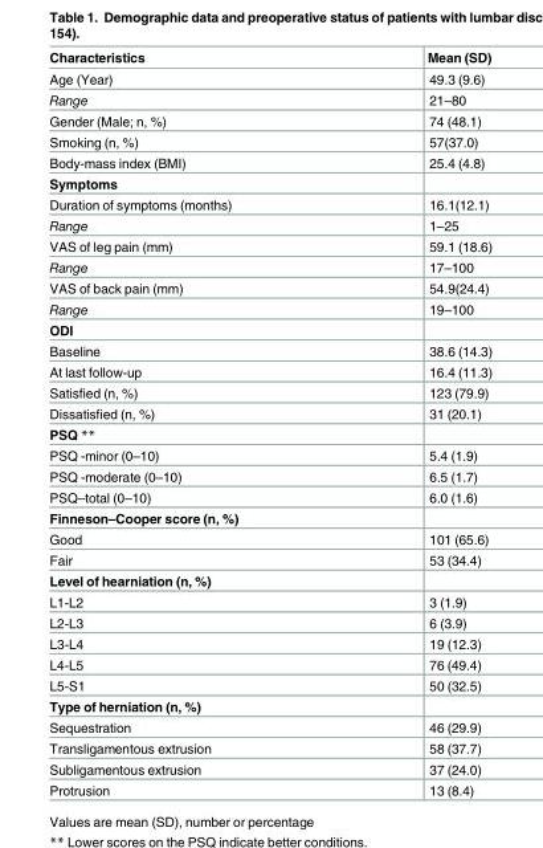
<table><thead><tr><td>Characteristics</td><td>Mean (SD)</td></tr></thead><tbody><tr><td>Age (Year)</td><td>49.3 (9.6)</td></tr><tr><td>Range</td><td>21–80</td></tr><tr><td>Gender (Male; n, %)</td><td>74 (48.1)</td></tr><tr><td>Smoking (n, %)</td><td>57(37.0)</td></tr><tr><td>Body-mass index (BMI)</td><td>25.4 (4.8)</td></tr><tr><td colspan="2">Symptoms</td></tr><tr><td>Duration of symptoms (months)</td><td>16.1(12.1)</td></tr><tr><td>Range</td><td>1–25</td></tr><tr><td>VAS of leg pain (mm)</td><td>59.1 (18.6)</td></tr><tr><td>Range</td><td>17–100</td></tr><tr><td>VAS of back pain (mm)</td><td>54.9(24.4)</td></tr><tr><td>Range</td><td>19–100</td></tr><tr><td colspan="2">ODI</td></tr><tr><td>Baseline</td><td>38.6 (14.3)</td></tr><tr><td>At last follow-up</td><td>16.4 (11.3)</td></tr><tr><td>Satisfied (n, %)</td><td>123 (79.9)</td></tr><tr><td>Dissatisfied (n, %)</td><td>31 (20.1)</td></tr><tr><td colspan="2">PSQ **</td></tr><tr><td>PSQ -minor (0–10)</td><td>5.4 (1.9)</td></tr><tr><td>PSQ -moderate (0–10)</td><td>6.5 (1.7)</td></tr><tr><td>PSQ–total (0–10)</td><td>6.0 (1.6)</td></tr><tr><td colspan="2">Finneson–Cooper score (n, %)</td></tr><tr><td>Good</td><td>101 (65.6)</td></tr><tr><td>Fair</td><td>53 (34.4)</td></tr><tr><td colspan="2">Level of hearniation (n, %)</td></tr><tr><td>L1-L2</td><td>3 (1.9)</td></tr><tr><td>L2-L3</td><td>6 (3.9)</td></tr><tr><td>L3-L4</td><td>19 (12.3)</td></tr><tr><td>L4-L5</td><td>76 (49.4)</td></tr><tr><td>L5-S1</td><td>50 (32.5)</td></tr><tr><td colspan="2">Type of herniation (n, %)</td></tr><tr><td>Sequestration</td><td>46 (29.9)</td></tr><tr><td>Transligamentous extrusion</td><td>58 (37.7)</td></tr><tr><td>Subligamentous extrusion</td><td>37 (24.0)</td></tr><tr><td>Protrusion</td><td>13 (8.4)</td></tr></tbody></table>